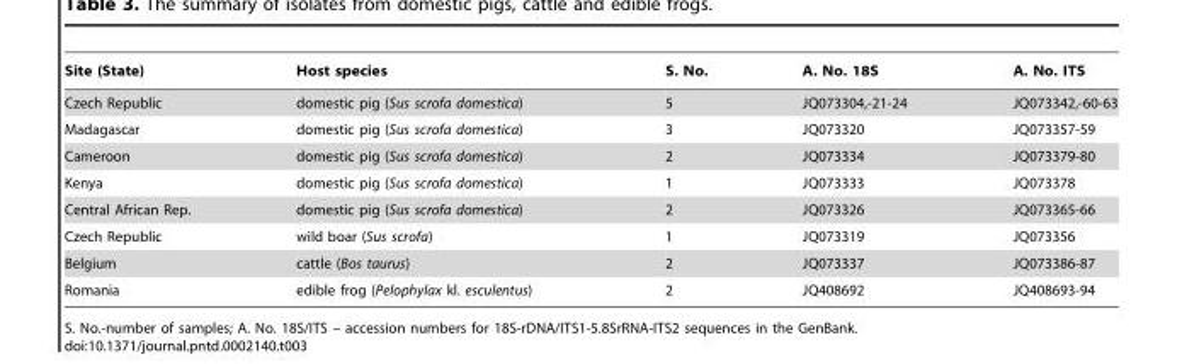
<table><thead><tr><td>Site (State)</td><td>Host species</td><td>S. No.</td><td>A. No. 18S</td><td>A. No. ITS</td></tr></thead><tbody><tr><td>Czech Republic</td><td>domestic pig (Sus scrofa domestica)</td><td>5</td><td>JQ073304,-21-24</td><td>JQ073342,-60-63</td></tr><tr><td>Madagascar</td><td>domestic pig (Sus scrofa domestica)</td><td>3</td><td>JQ073320</td><td>JQ073357-59</td></tr><tr><td>Cameroon</td><td>domestic pig (Sus scrofa domestica)</td><td>2</td><td>JQ073334</td><td>JQ073379-80</td></tr><tr><td>Kenya</td><td>domestic pig (Sus scrofa domestica)</td><td>1</td><td>JQ073333</td><td>JQ073378</td></tr><tr><td>Central African Rep.</td><td>domestic pig (Sus scrofa domestica)</td><td>2</td><td>JQ073326</td><td>JQ073365-66</td></tr><tr><td>Czech Republic</td><td>wild boar (Sus scrofa)</td><td>1</td><td>JQ073319</td><td>JQ073356</td></tr><tr><td>Belgium</td><td>cattle (Bos taurus)</td><td>2</td><td>JQ073337</td><td>JQ073386-87</td></tr><tr><td>Romania</td><td>edible frog (Pelophylax kl. esculentus)</td><td>2</td><td>JQ408692</td><td>JQ408693-94</td></tr></tbody></table>